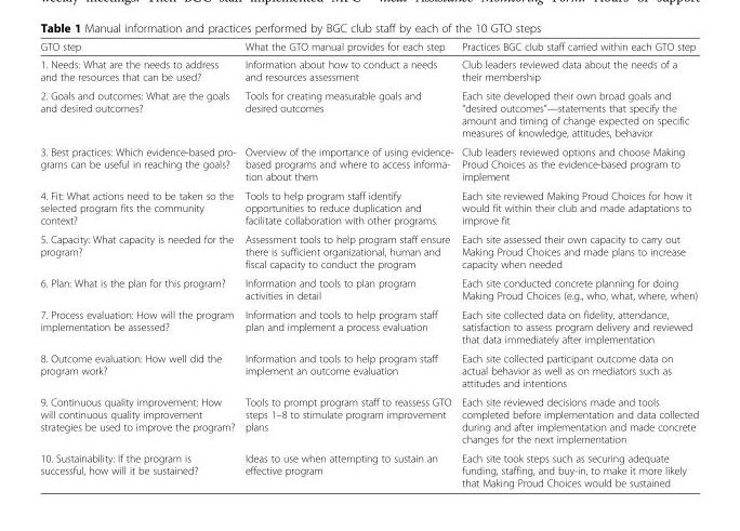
<table><thead><tr><td>GTO step</td><td>What the GTO manual provides for each step</td><td>Practices BGC club staff carried within each GTO step</td></tr></thead><tbody><tr><td>1. Needs: What are the needs to address and the resources that can be used?</td><td>Information about how to conduct a needs and resources assessment</td><td>Club leaders reviewed data about the needs of a their membership</td></tr><tr><td>2. Goals and outcomes: What are the goals and desired outcomes?</td><td>Tools for creating measurable goals and desired outcomes</td><td>Each site developed their own broad goals and “desired outcomes”—statements that specify the amount and timing of change expected on specific measures of knowledge, attitudes, behavior</td></tr><tr><td>3. Best practices: Which evidence-based pro- grams can be useful in reaching the goals?</td><td>Overview of the importance of using evidence- based programs and where to access informa- tion about them</td><td>Club leaders reviewed options and choose Making Proud Choices as the evidence-based program to implement</td></tr><tr><td>4. Fit: What actions need to be taken so the selected program fits the community context?</td><td>Tools to help program staff identify opportunities to reduce duplication and facilitate collaboration with other programs.</td><td>Each site reviewed Making Proud Choices for how it would fit within their club and made adaptations to improve fit</td></tr><tr><td>5. Capacity: What capacity is needed for the program?</td><td>Assessment tools to help program staff ensure there is sufficient organizational, human and fiscal capacity to conduct the program</td><td>Each site assessed their own capacity to carry out Making Proud Choices and made plans to increase capacity when needed</td></tr><tr><td>6. Plan: What is the plan for this program?</td><td>Information and tools to plan program activities in detail</td><td>Each site conducted concrete planning for doing Making Proud Choices (e.g., who, what, where, when)</td></tr><tr><td>7. Process evaluation: How will the program implementation be assessed?</td><td>Information and tools to help program staff plan and implement a process evaluation</td><td>Each site collected data on fidelity, attendance, satisfaction to assess program delivery and reviewed that data immediately after implementation</td></tr><tr><td>8. Outcome evaluation: How well did the program work?</td><td>Information and tools to help program staff implement an outcome evaluation</td><td>Each site collected participant outcome data on actual behavior as well as on mediators such as attitudes and intentions</td></tr><tr><td>9. Continuous quality improvement: How will continuous quality improvement strategies be used to improve the program?</td><td>Tools to prompt program staff to reassess GTO steps 1–8 to stimulate program improvement plans</td><td>Each site reviewed decisions made and tools completed before implementation and data collected during and after implementation and made concrete changes for the next implementation</td></tr><tr><td>10. Sustainability: If the program is successful, how will it be sustained?</td><td>Ideas to use when attempting to sustain an effective program</td><td>Each site took steps such as securing adequate funding, staffing, and buy-in, to make it more likely that Making Proud Choices would be sustained</td></tr></tbody></table>